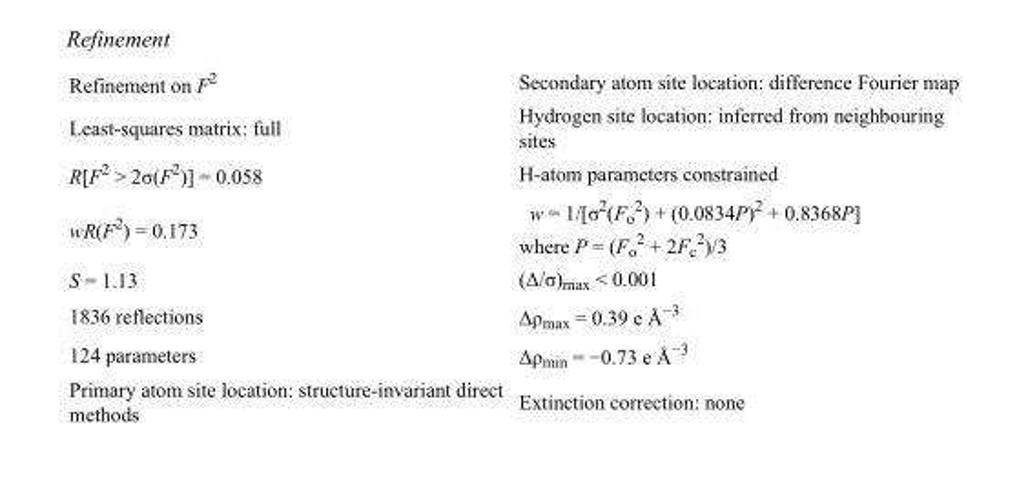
<table><tbody><tr><td>Refinement on F<sup>2</sup></td><td>Secondary atom site location: difference Fourier map</td></tr><tr><td>Least-squares matrix: full</td><td>Hydrogen site location: inferred from neighbouring sites</td></tr><tr><td>R[F<sup>2</sup> &gt; 2σ(F<sup>2</sup>)] = 0.058</td><td>H-atom parameters constrained</td></tr><tr><td>wR(F<sup>2</sup>) = 0.173</td><td>w = 1/[σ<sup>2</sup>(F<sub>o</sub> <sup>2</sup>) + (0.0834P)<sup>2</sup> + 0.8368P] where P = (F<sub>o</sub> <sup>2</sup> + 2F<sub>c</sub> <sup>2</sup>)/3</td></tr><tr><td>S = 1.13</td><td>(Δ/σ)<sub>max</sub> &lt; 0.001</td></tr><tr><td>1836 reflections</td><td>Δρ<sub>max</sub> = 0.39 e Å<sup>−3</sup></td></tr><tr><td>124 parameters</td><td>Δρ<sub>min</sub> = −0.73 e Å<sup>−3</sup></td></tr><tr><td>Primary atom site location: structure-invariant direct methods</td><td>Extinction correction: none</td></tr></tbody></table>